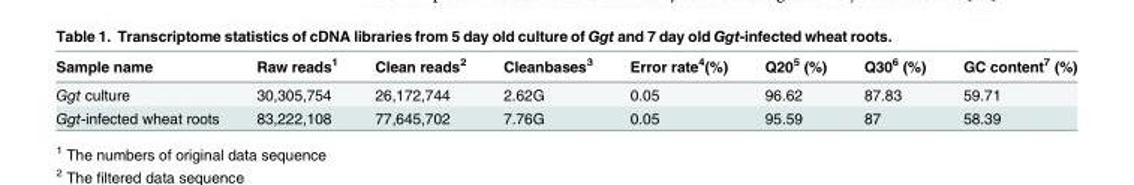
<table><thead><tr><td>Sample name</td><td>Raw reads<sup>1</sup></td><td>Clean reads<sup>2</sup></td><td>Cleanbases<sup>3</sup></td><td>Error rate<sup>4</sup>(%)</td><td>Q20<sup>5</sup> (%)</td><td>Q30<sup>6</sup> (%)</td><td>GC content<sup>7</sup> (%)</td></tr></thead><tbody><tr><td>Ggt culture</td><td>30,305,754</td><td>26,172,744</td><td>2.62G</td><td>0.05</td><td>96.62</td><td>87.83</td><td>59.71</td></tr><tr><td>Ggt-infected wheat roots</td><td>83,222,108</td><td>77,645,702</td><td>7.76G</td><td>0.05</td><td>95.59</td><td>87</td><td>58.39</td></tr></tbody></table>